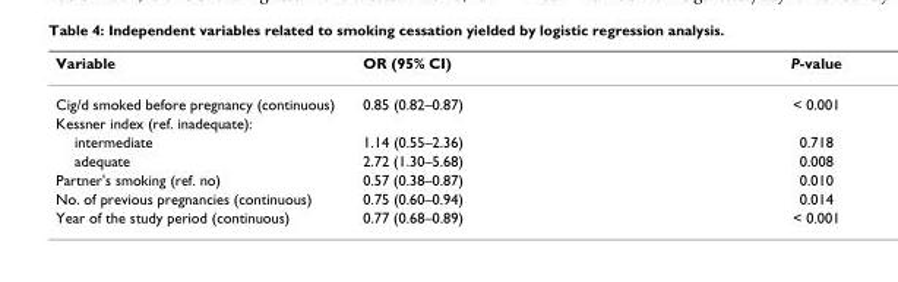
<table><thead><tr><td>Variable</td><td>OR (95% CI)</td><td>P-value</td></tr></thead><tbody><tr><td>Cig/d smoked before pregnancy (continuous)</td><td>0.85 (0.82–0.87)</td><td>&lt; 0.001</td></tr><tr><td colspan="3">Kessner index (ref. inadequate):</td></tr><tr><td>intermediate</td><td>1.14 (0.55–2.36)</td><td>0.718</td></tr><tr><td>adequate</td><td>2.72 (1.30–5.68)</td><td>0.008</td></tr><tr><td>Partner&#x27;s smoking (ref. no)</td><td>0.57 (0.38–0.87)</td><td>0.010</td></tr><tr><td>No. of previous pregnancies (continuous)</td><td>0.75 (0.60–0.94)</td><td>0.014</td></tr><tr><td>Year of the study period (continuous)</td><td>0.77 (0.68–0.89)</td><td>&lt; 0.001</td></tr></tbody></table>